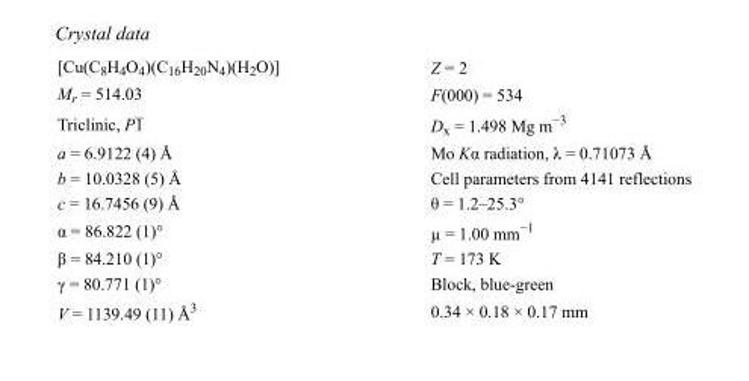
<table><tbody><tr><td>[Cu(C<sub>8</sub>H<sub>4</sub>O<sub>4</sub>)(C<sub>16</sub>H<sub>20</sub>N<sub>4</sub>)(H<sub>2</sub>O)]</td><td>Z = 2</td></tr><tr><td>M<sub>r</sub> = 514.03</td><td>F(000) = 534</td></tr><tr><td>Triclinic, P1</td><td>D<sub>x</sub> = 1.498 Mg m<sup>−3</sup></td></tr><tr><td>a = 6.9122 (4) Å</td><td>Mo Kα radiation, λ = 0.71073 Å</td></tr><tr><td>b = 10.0328 (5) Å</td><td>Cell parameters from 4141 reflections</td></tr><tr><td>c = 16.7456 (9) Å</td><td>θ = 1.2–25.3°</td></tr><tr><td>α = 86.822 (1)°</td><td>µ = 1.00 mm<sup>−1</sup></td></tr><tr><td>β = 84.210 (1)°</td><td>T = 173 K</td></tr><tr><td>γ = 80.771 (1)°</td><td>Block, blue-green</td></tr><tr><td>V = 1139.49 (11) Å<sup>3</sup></td><td>0.34 × 0.18 × 0.17 mm</td></tr></tbody></table>